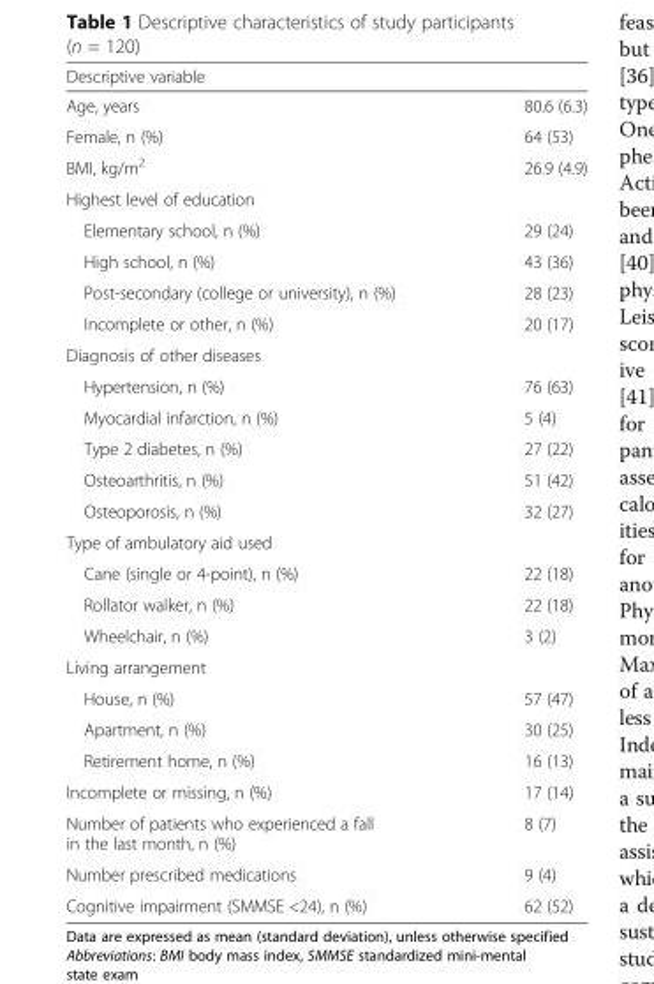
<table><thead><tr><td>Descriptive variable</td><td></td></tr></thead><tbody><tr><td>Age, years</td><td>80.6 (6.3)</td></tr><tr><td>Female, n (%)</td><td>64 (53)</td></tr><tr><td>BMI, kg/m<sup>2</sup></td><td>26.9 (4.9)</td></tr><tr><td colspan="2">Highest level of education</td></tr><tr><td>Elementary school, n (%)</td><td>29 (24)</td></tr><tr><td>High school, n (%)</td><td>43 (36)</td></tr><tr><td>Post-secondary (college or university), n (%)</td><td>28 (23)</td></tr><tr><td>Incomplete or other, n (%)</td><td>20 (17)</td></tr><tr><td colspan="2">Diagnosis of other diseases</td></tr><tr><td>Hypertension, n (%)</td><td>76 (63)</td></tr><tr><td>Myocardial infarction, n (%)</td><td>5 (4)</td></tr><tr><td>Type 2 diabetes, n (%)</td><td>27 (22)</td></tr><tr><td>Osteoarthritis, n (%)</td><td>51 (42)</td></tr><tr><td>Osteoporosis, n (%)</td><td>32 (27)</td></tr><tr><td colspan="2">Type of ambulatory aid used</td></tr><tr><td>Cane (single or 4-point), n (%)</td><td>22 (18)</td></tr><tr><td>Rollator walker, n (%)</td><td>22 (18)</td></tr><tr><td>Wheelchair, n (%)</td><td>3 (2)</td></tr><tr><td colspan="2">Living arrangement</td></tr><tr><td>House, n (%)</td><td>57 (47)</td></tr><tr><td>Apartment, n (%)</td><td>30 (25)</td></tr><tr><td>Retirement home, n (%)</td><td>16 (13)</td></tr><tr><td>Incomplete or missing, n (%)</td><td>17 (14)</td></tr><tr><td>Number of patients who experienced a fall in the last month, n (%)</td><td>8 (7)</td></tr><tr><td>Number prescribed medications</td><td>9 (4)</td></tr><tr><td>Cognitive impairment (SMMSE &lt;24), n (%)</td><td>62 (52)</td></tr></tbody></table>